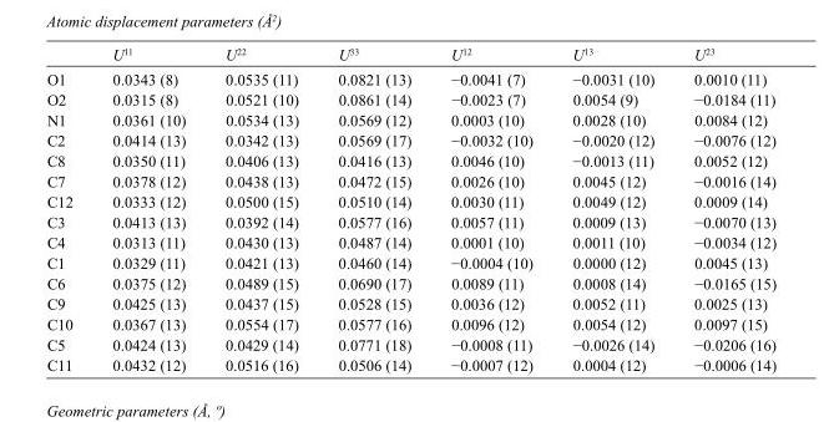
<table><thead><tr><td></td><td>U<sup>11</sup></td><td>U<sup>22</sup></td><td>U<sup>33</sup></td><td>U<sup>12</sup></td><td>U<sup>13</sup></td><td>U<sup>23</sup></td></tr></thead><tbody><tr><td>O1</td><td>0.0343 (8)</td><td>0.0535 (11)</td><td>0.0821 (13)</td><td>−0.0041 (7)</td><td>−0.0031 (10)</td><td>0.0010 (11)</td></tr><tr><td>O2</td><td>0.0315 (8)</td><td>0.0521 (10)</td><td>0.0861 (14)</td><td>−0.0023 (7)</td><td>0.0054 (9)</td><td>−0.0184 (11)</td></tr><tr><td>N1</td><td>0.0361 (10)</td><td>0.0534 (13)</td><td>0.0569 (12)</td><td>0.0003 (10)</td><td>0.0028 (10)</td><td>0.0084 (12)</td></tr><tr><td>C2</td><td>0.0414 (13)</td><td>0.0342 (13)</td><td>0.0569 (17)</td><td>−0.0032 (10)</td><td>−0.0020 (12)</td><td>−0.0076 (12)</td></tr><tr><td>C8</td><td>0.0350 (11)</td><td>0.0406 (13)</td><td>0.0416 (13)</td><td>0.0046 (10)</td><td>−0.0013 (11)</td><td>0.0052 (12)</td></tr><tr><td>C7</td><td>0.0378 (12)</td><td>0.0438 (13)</td><td>0.0472 (15)</td><td>0.0026 (10)</td><td>0.0045 (12)</td><td>−0.0016 (14)</td></tr><tr><td>C12</td><td>0.0333 (12)</td><td>0.0500 (15)</td><td>0.0510 (14)</td><td>0.0030 (11)</td><td>0.0049 (12)</td><td>0.0009 (14)</td></tr><tr><td>C3</td><td>0.0413 (13)</td><td>0.0392 (14)</td><td>0.0577 (16)</td><td>0.0057 (11)</td><td>0.0009 (13)</td><td>−0.0070 (13)</td></tr><tr><td>C4</td><td>0.0313 (11)</td><td>0.0430 (13)</td><td>0.0487 (14)</td><td>0.0001 (10)</td><td>0.0011 (10)</td><td>−0.0034 (12)</td></tr><tr><td>C1</td><td>0.0329 (11)</td><td>0.0421 (13)</td><td>0.0460 (14)</td><td>−0.0004 (10)</td><td>0.0000 (12)</td><td>0.0045 (13)</td></tr><tr><td>C6</td><td>0.0375 (12)</td><td>0.0489 (15)</td><td>0.0690 (17)</td><td>0.0089 (11)</td><td>0.0008 (14)</td><td>−0.0165 (15)</td></tr><tr><td>C9</td><td>0.0425 (13)</td><td>0.0437 (15)</td><td>0.0528 (15)</td><td>0.0036 (12)</td><td>0.0052 (11)</td><td>0.0025 (13)</td></tr><tr><td>C10</td><td>0.0367 (13)</td><td>0.0554 (17)</td><td>0.0577 (16)</td><td>0.0096 (12)</td><td>0.0054 (12)</td><td>0.0097 (15)</td></tr><tr><td>C5</td><td>0.0424 (13)</td><td>0.0429 (14)</td><td>0.0771 (18)</td><td>−0.0008 (11)</td><td>−0.0026 (14)</td><td>−0.0206 (16)</td></tr><tr><td>C11</td><td>0.0432 (12)</td><td>0.0516 (16)</td><td>0.0506 (14)</td><td>−0.0007 (12)</td><td>0.0004 (12)</td><td>−0.0006 (14)</td></tr></tbody></table>